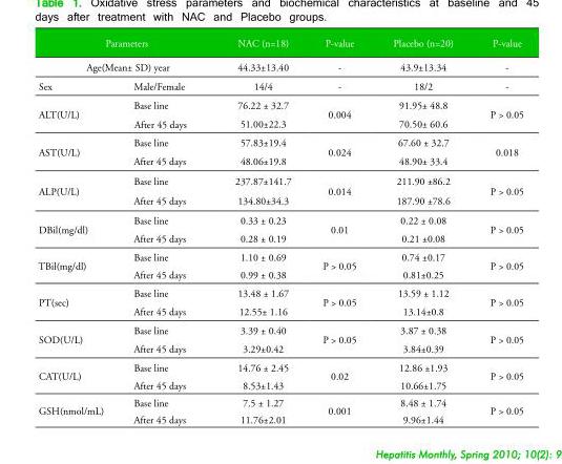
<table><thead><tr><td rowspan="2" colspan="2">Parameters Age(Mean± SD) year</td><td rowspan="3">NAC (n=18) 44.33±13.40 14/4</td><td rowspan="3">P-value - -</td><td rowspan="3">Placebo (n=20) 43.9±13.34 18/2</td><td rowspan="3">P-value - -</td></tr><tr></tr><tr><td>Sex</td><td>Male/Female</td></tr></thead><tbody><tr><td rowspan="2">ALT(U/L)</td><td>Base line</td><td>76.22 ± 32.7</td><td rowspan="2">0.004</td><td>91.95± 48.8</td><td rowspan="2">P &gt; 0.05</td></tr><tr><td>After 45 days</td><td>51.00±22.3</td><td>70.50± 60.6</td></tr><tr><td rowspan="2">AST(U/L)</td><td>Base line</td><td>57.83±19.4</td><td rowspan="2">0.024</td><td>67.60 ± 32.7</td><td rowspan="2">0.018</td></tr><tr><td>After 45 days</td><td>48.06±19.8</td><td>48.90± 33.4</td></tr><tr><td rowspan="2">ALP(U/L)</td><td>Base line</td><td>237.87±141.7</td><td rowspan="2">0.014</td><td>211.90 ±86.2</td><td rowspan="2">P &gt; 0.05</td></tr><tr><td>After 45 days</td><td>134.80±34.3</td><td>187.90 ±78.6</td></tr><tr><td rowspan="2">DBil(mg/dl)</td><td>Base line</td><td>0.33 ± 0.23</td><td rowspan="2">0.01</td><td>0.22 ± 0.08</td><td rowspan="2">P &gt; 0.05</td></tr><tr><td>After 45 days</td><td>0.28 ± 0.19</td><td>0.21 ±0.08</td></tr><tr><td rowspan="2">TBil(mg/dl)</td><td>Base line</td><td>1.10 ± 0.69</td><td rowspan="2">P &gt; 0.05</td><td>0.74 ±0.17</td><td rowspan="2">P &gt; 0.05</td></tr><tr><td>After 45 days</td><td>0.99 ± 0.38</td><td>0.81±0.25</td></tr><tr><td rowspan="2">PT(sec)</td><td>Base line</td><td>13.48 ± 1.67</td><td rowspan="2">P &gt; 0.05</td><td>13.59 ± 1.12</td><td rowspan="2">P &gt; 0.05</td></tr><tr><td>After 45 days</td><td>12.55± 1.16</td><td>13.14±0.8</td></tr><tr><td rowspan="2">SOD(U/L)</td><td>Base line</td><td>3.39 ± 0.40</td><td rowspan="2">P &gt; 0.05</td><td>3.87 ± 0.38</td><td rowspan="2">P &gt; 0.05</td></tr><tr><td>After 45 days</td><td>3.29±0.42</td><td>3.84±0.39</td></tr><tr><td rowspan="2">CAT(U/L)</td><td>Base line</td><td>14.76 ± 2.45</td><td rowspan="2">0.02</td><td>12.86 ±1.93</td><td rowspan="2">P &gt; 0.05</td></tr><tr><td>After 45 days</td><td>8.53±1.43</td><td>10.66±1.75</td></tr><tr><td rowspan="2">GSH(nmol/mL)</td><td>Base line</td><td>7.5 ± 1.27</td><td rowspan="2">0.001</td><td>8.48 ± 1.74</td><td rowspan="2">P &gt; 0.05</td></tr><tr><td>After 45 days</td><td>11.76±2.01</td><td>9.96±1.44</td></tr></tbody></table>